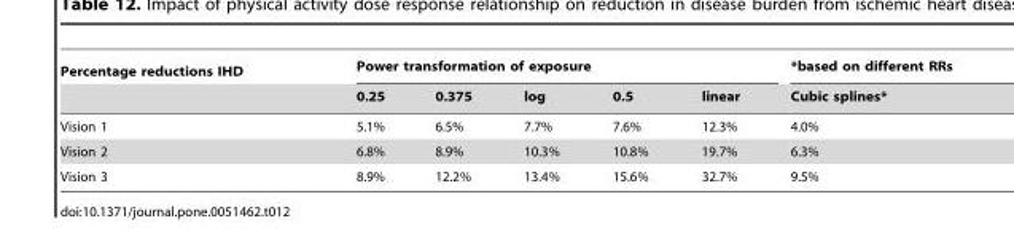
<table><thead><tr><td rowspan="2">Percentage reductions IHD</td><td colspan="5">Power transformation of exposure</td><td rowspan="2">*based on different RRs Cubic splines*</td></tr><tr><td>0.25</td><td>0.375</td><td>log</td><td>0.5</td><td>linear</td></tr></thead><tbody><tr><td>Vision 1</td><td>5.1%</td><td>6.5%</td><td>7.7%</td><td>7.6%</td><td>12.3%</td><td>4.0%</td></tr><tr><td>Vision 2</td><td>6.8%</td><td>8.9%</td><td>10.3%</td><td>10.8%</td><td>19.7%</td><td>6.3%</td></tr><tr><td>Vision 3</td><td>8.9%</td><td>12.2%</td><td>13.4%</td><td>15.6%</td><td>32.7%</td><td>9.5%</td></tr></tbody></table>